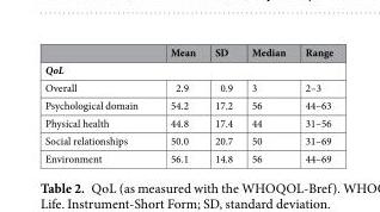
<table><thead><tr><td></td><td>Mean</td><td>SD</td><td>Median</td><td>Range</td></tr></thead><tbody><tr><td colspan="5">QoL</td></tr><tr><td>Overall</td><td>2.9</td><td>0.9</td><td>3</td><td>2–3</td></tr><tr><td>Psychological domain</td><td>54.2</td><td>17.2</td><td>56</td><td>44–63</td></tr><tr><td>Physical health</td><td>44.8</td><td>17.4</td><td>44</td><td>31–56</td></tr><tr><td>Social relationships</td><td>50.0</td><td>20.7</td><td>50</td><td>31–69</td></tr><tr><td>Environment</td><td>56.1</td><td>14.8</td><td>56</td><td>44–69</td></tr></tbody></table>